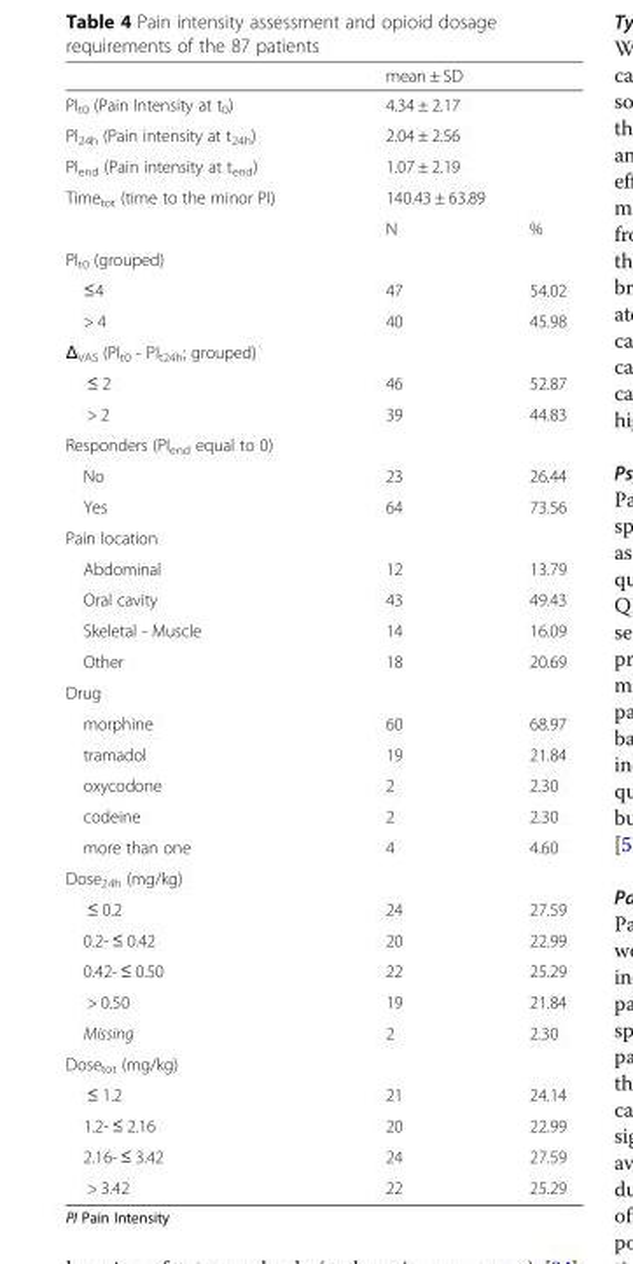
<table><thead><tr><td></td><td colspan="2">mean ± SD</td></tr></thead><tbody><tr><td>PI<sub>t0</sub> (Pain Intensity at t<sub>0</sub>)</td><td colspan="2">4.34 ± 2.17</td></tr><tr><td>PI<sub>24h</sub> (Pain intensity at t<sub>24h</sub>)</td><td colspan="2">2.04 ± 2.56</td></tr><tr><td>PI<sub>end</sub> (Pain intensity at t<sub>end</sub>)</td><td colspan="2">1.07 ± 2.19</td></tr><tr><td rowspan="2">Time<sub>tot</sub> (time to the minor PI)</td><td colspan="2">140.43 ± 63.89</td></tr><tr><td>N</td><td>%</td></tr><tr><td colspan="3">PI<sub>t0</sub> (grouped)</td></tr><tr><td>≤4</td><td>47</td><td>54.02</td></tr><tr><td>&gt; 4</td><td>40</td><td>45.98</td></tr><tr><td colspan="3">Δ<sub>VAS</sub> (PI<sub>t0</sub> - PI<sub>t24h</sub>; grouped)</td></tr><tr><td>≤ 2</td><td>46</td><td>52.87</td></tr><tr><td>&gt; 2</td><td>39</td><td>44.83</td></tr><tr><td colspan="3">Responders (PI<sub>end</sub> equal to 0)</td></tr><tr><td>No</td><td>23</td><td>26.44</td></tr><tr><td>Yes</td><td>64</td><td>73.56</td></tr><tr><td colspan="3">Pain location</td></tr><tr><td>Abdominal</td><td>12</td><td>13.79</td></tr><tr><td>Oral cavity</td><td>43</td><td>49.43</td></tr><tr><td>Skeletal - Muscle</td><td>14</td><td>16.09</td></tr><tr><td>Other</td><td>18</td><td>20.69</td></tr><tr><td colspan="3">Drug</td></tr><tr><td>morphine</td><td>60</td><td>68.97</td></tr><tr><td>tramadol</td><td>19</td><td>21.84</td></tr><tr><td>oxycodone</td><td>2</td><td>2.30</td></tr><tr><td>codeine</td><td>2</td><td>2.30</td></tr><tr><td>more than one</td><td>4</td><td>4.60</td></tr><tr><td colspan="3">Dose<sub>24h</sub> (mg/kg)</td></tr><tr><td>≤ 0.2</td><td>24</td><td>27.59</td></tr><tr><td>0.2- ≤ 0.42</td><td>20</td><td>22.99</td></tr><tr><td>0.42- ≤ 0.50</td><td>22</td><td>25.29</td></tr><tr><td>&gt; 0.50</td><td>19</td><td>21.84</td></tr><tr><td>Missing</td><td>2</td><td>2.30</td></tr><tr><td colspan="3">Dose<sub>tot</sub> (mg/kg)</td></tr><tr><td>≤ 1.2</td><td>21</td><td>24.14</td></tr><tr><td>1.2- ≤ 2.16</td><td>20</td><td>22.99</td></tr><tr><td>2.16- ≤ 3.42</td><td>24</td><td>27.59</td></tr><tr><td>&gt; 3.42</td><td>22</td><td>25.29</td></tr></tbody></table>